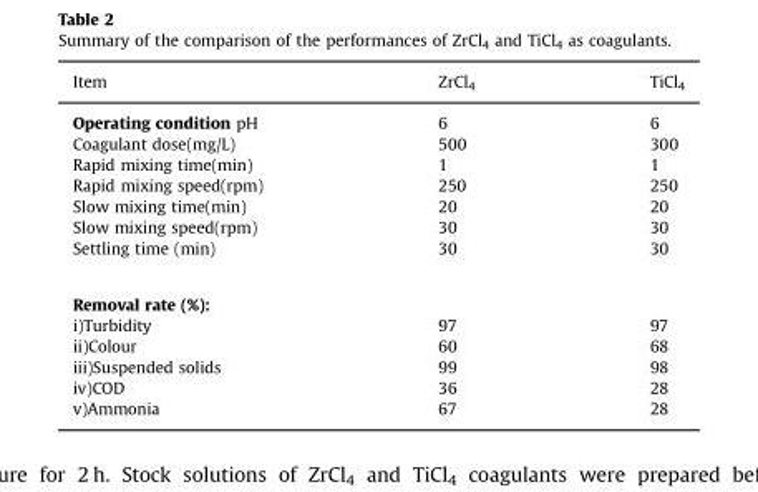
<table><thead><tr><td>Item</td><td>ZrCl<sub>4</sub></td><td>TiCl<sub>4</sub></td></tr></thead><tbody><tr><td>Operating condition pH</td><td>6</td><td>6</td></tr><tr><td>Coagulant dose(mg/L)</td><td>500</td><td>300</td></tr><tr><td>Rapid mixing time(min)</td><td>1</td><td>1</td></tr><tr><td>Rapid mixing speed(rpm)</td><td>250</td><td>250</td></tr><tr><td>Slow mixing time(min)</td><td>20</td><td>20</td></tr><tr><td>Slow mixing speed(rpm)</td><td>30</td><td>30</td></tr><tr><td>Settling time (min)</td><td>30</td><td>30</td></tr><tr><td colspan="3">Removal rate (%):</td></tr><tr><td>i)Turbidity</td><td>97</td><td>97</td></tr><tr><td>ii)Colour</td><td>60</td><td>68</td></tr><tr><td>iii)Suspended solids</td><td>99</td><td>98</td></tr><tr><td>iv)COD</td><td>36</td><td>28</td></tr><tr><td>v)Ammonia</td><td>67</td><td>28</td></tr></tbody></table>